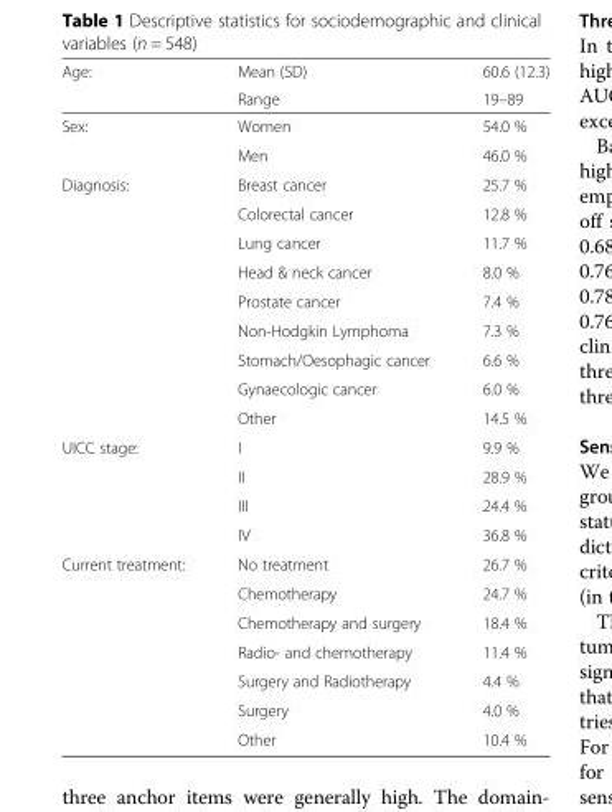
<table><thead><tr><td rowspan="2">Age:</td><td rowspan="2">Mean (SD) Range</td><td rowspan="2">60.6 (12.3) 19–89</td></tr><tr></tr></thead><tbody><tr><td rowspan="2">Sex:</td><td>Women</td><td>54.0 %</td></tr><tr><td>Men</td><td>46.0 %</td></tr><tr><td rowspan="9">Diagnosis:</td><td>Breast cancer</td><td>25.7 %</td></tr><tr><td>Colorectal cancer</td><td>12.8 %</td></tr><tr><td>Lung cancer</td><td>11.7 %</td></tr><tr><td>Head &amp; neck cancer</td><td>8.0 %</td></tr><tr><td>Prostate cancer</td><td>7.4 %</td></tr><tr><td>Non-Hodgkin Lymphoma</td><td>7.3 %</td></tr><tr><td>Stomach/Oesophagic cancer</td><td>6.6 %</td></tr><tr><td>Gynaecologic cancer</td><td>6.0 %</td></tr><tr><td>Other</td><td>14.5 %</td></tr><tr><td rowspan="4">UICC stage:</td><td>I</td><td>9.9 %</td></tr><tr><td>II</td><td>28.9 %</td></tr><tr><td>III</td><td>24.4 %</td></tr><tr><td>IV</td><td>36.8 %</td></tr><tr><td rowspan="7">Current treatment:</td><td>No treatment</td><td>26.7 %</td></tr><tr><td>Chemotherapy</td><td>24.7 %</td></tr><tr><td>Chemotherapy and surgery</td><td>18.4 %</td></tr><tr><td>Radio- and chemotherapy</td><td>11.4 %</td></tr><tr><td>Surgery and Radiotherapy</td><td>4.4 %</td></tr><tr><td>Surgery</td><td>4.0 %</td></tr><tr><td>Other</td><td>10.4 %</td></tr></tbody></table>